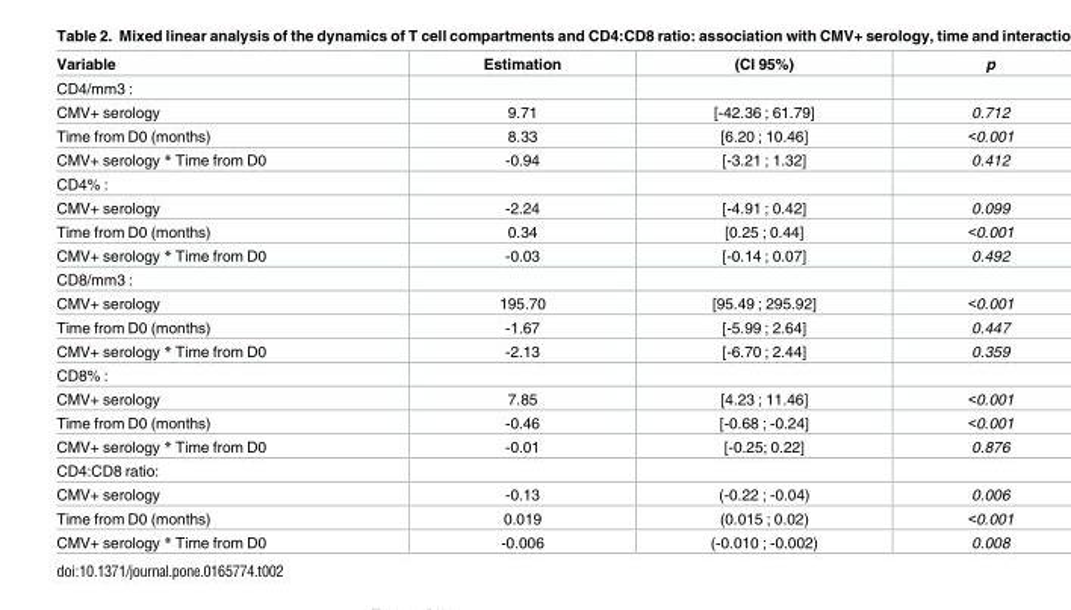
<table><thead><tr><td>Variable</td><td>Estimation</td><td>(CI 95%)</td><td>p</td></tr></thead><tbody><tr><td colspan="4">CD4/mm3 :</td></tr><tr><td>CMV+ serology</td><td>9.71</td><td>[-42.36 ; 61.79]</td><td>0.712</td></tr><tr><td>Time from D0 (months)</td><td>8.33</td><td>[6.20 ; 10.46]</td><td>&lt;0.001</td></tr><tr><td>CMV+ serology * Time from D0</td><td>-0.94</td><td>[-3.21 ; 1.32]</td><td>0.412</td></tr><tr><td colspan="4">CD4% :</td></tr><tr><td>CMV+ serology</td><td>-2.24</td><td>[-4.91 ; 0.42]</td><td>0.099</td></tr><tr><td>Time from D0 (months)</td><td>0.34</td><td>[0.25 ; 0.44]</td><td>&lt;0.001</td></tr><tr><td>CMV+ serology * Time from D0</td><td>-0.03</td><td>[-0.14 ; 0.07]</td><td>0.492</td></tr><tr><td colspan="4">CD8/mm3 :</td></tr><tr><td>CMV+ serology</td><td>195.70</td><td>[95.49 ; 295.92]</td><td>&lt;0.001</td></tr><tr><td>Time from D0 (months)</td><td>-1.67</td><td>[-5.99 ; 2.64]</td><td>0.447</td></tr><tr><td>CMV+ serology * Time from D0</td><td>-2.13</td><td>[-6.70 ; 2.44]</td><td>0.359</td></tr><tr><td colspan="4">CD8% :</td></tr><tr><td>CMV+ serology</td><td>7.85</td><td>[4.23 ; 11.46]</td><td>&lt;0.001</td></tr><tr><td>Time from D0 (months)</td><td>-0.46</td><td>[-0.68 ; -0.24]</td><td>&lt;0.001</td></tr><tr><td>CMV+ serology * Time from D0</td><td>-0.01</td><td>[-0.25; 0.22]</td><td>0.876</td></tr><tr><td colspan="4">CD4:CD8 ratio:</td></tr><tr><td>CMV+ serology</td><td>-0.13</td><td>(-0.22 ; -0.04)</td><td>0.006</td></tr><tr><td>Time from D0 (months)</td><td>0.019</td><td>(0.015 ; 0.02)</td><td>&lt;0.001</td></tr><tr><td>CMV+ serology * Time from D0</td><td>-0.006</td><td>(-0.010 ; -0.002)</td><td>0.008</td></tr></tbody></table>